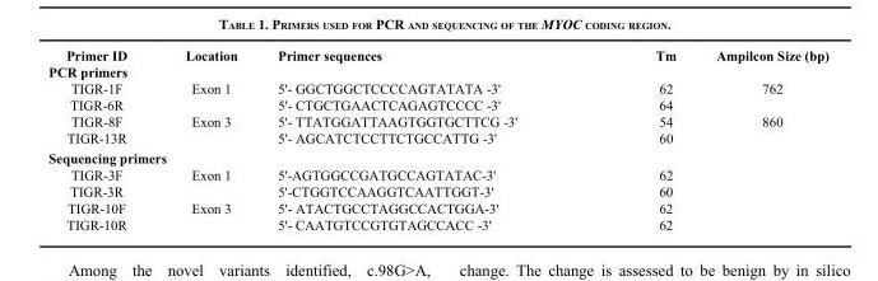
<table><thead><tr><td>Primer ID</td><td>Location</td><td>Primer sequences</td><td>Tm</td><td>Ampilcon Size (bp)</td></tr></thead><tbody><tr><td colspan="5">PCR primers</td></tr><tr><td>TIGR-1F</td><td>Exon 1</td><td>5&#x27;- GGCTGGCTCCCCAGTATATA -3&#x27;</td><td>62</td><td>762</td></tr><tr><td>TIGR-6R</td><td></td><td>5&#x27;- CTGCTGAACTCAGAGTCCCC -3&#x27;</td><td>64</td><td></td></tr><tr><td>TIGR-8F</td><td>Exon 3</td><td>5&#x27;- TTATGGATTAAGTGGTGCTTCG -3&#x27;</td><td>54</td><td>860</td></tr><tr><td>TIGR-13R</td><td></td><td>5&#x27;- AGCATCTCCTTCTGCCATTG -3&#x27;</td><td>60</td><td></td></tr><tr><td colspan="5">Sequencing primers</td></tr><tr><td>TIGR-3F</td><td>Exon 1</td><td>5&#x27;-AGTGGCCGATGCCAGTATAC-3&#x27;</td><td>62</td><td></td></tr><tr><td>TIGR-3R</td><td></td><td>5&#x27;-CTGGTCCAAGGTCAATTGGT-3&#x27;</td><td>60</td><td></td></tr><tr><td>TIGR-10F</td><td>Exon 3</td><td>5&#x27;- ATACTGCCTAGGCCACTGGA-3&#x27;</td><td>62</td><td></td></tr><tr><td>TIGR-10R</td><td></td><td>5&#x27;- CAATGTCCGTGTAGCCACC -3&#x27;</td><td>62</td><td></td></tr></tbody></table>